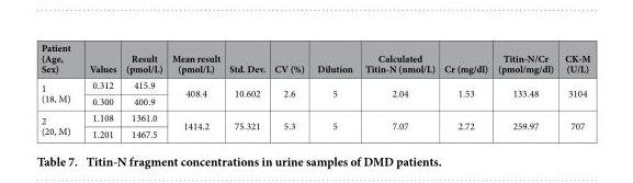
<table><thead><tr><td>Patient (Age, Sex)</td><td>Values</td><td>Result (pmol/L)</td><td>Mean result (pmol/L)</td><td>Std. Dev.</td><td>CV (%)</td><td>Dilution</td><td>Calculated Titin-N (nmol/L)</td><td>Cr (mg/dl)</td><td>Titin-N/Cr (pmol/mg/dl)</td><td>CK-M (U/L)</td></tr></thead><tbody><tr><td rowspan="2">1 (18, M)</td><td>0.312</td><td>415.9</td><td rowspan="2">408.4</td><td rowspan="2">10.602</td><td rowspan="2">2.6</td><td rowspan="2">5</td><td rowspan="2">2.04</td><td rowspan="2">1.53</td><td rowspan="2">133.48</td><td rowspan="2">3104</td></tr><tr><td>0.300</td><td>400.9</td></tr><tr><td rowspan="2">2 (20, M)</td><td>1.108</td><td>1361.0</td><td rowspan="2">1414.2</td><td rowspan="2">75.321</td><td rowspan="2">5.3</td><td rowspan="2">5</td><td rowspan="2">7.07</td><td rowspan="2">2.72</td><td rowspan="2">259.97</td><td rowspan="2">707</td></tr><tr><td>1.201</td><td>1467.5</td></tr></tbody></table>